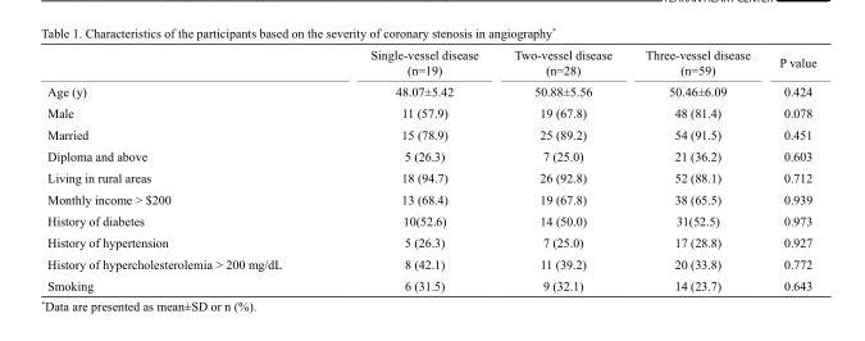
<table><thead><tr><td></td><td>Single-vessel disease (n=19)</td><td>Two-vessel disease (n=28)</td><td>Three-vessel disease (n=59)</td><td>P value</td></tr></thead><tbody><tr><td>Age (y)</td><td>48.07±5.42</td><td>50.88±5.56</td><td>50.46±6.09</td><td>0.424</td></tr><tr><td>Male</td><td>11 (57.9)</td><td>19 (67.8)</td><td>48 (81.4)</td><td>0.078</td></tr><tr><td>Married</td><td>15 (78.9)</td><td>25 (89.2)</td><td>54 (91.5)</td><td>0.451</td></tr><tr><td>Diploma and above</td><td>5 (26.3)</td><td>7 (25.0)</td><td>21 (36.2)</td><td>0.603</td></tr><tr><td>Living in rural areas</td><td>18 (94.7)</td><td>26 (92.8)</td><td>52 (88.1)</td><td>0.712</td></tr><tr><td>Monthly income &gt; $200</td><td>13 (68.4)</td><td>19 (67.8)</td><td>38 (65.5)</td><td>0.939</td></tr><tr><td>History of diabetes</td><td>10(52.6)</td><td>14 (50.0)</td><td>31(52.5)</td><td>0.973</td></tr><tr><td>History of hypertension</td><td>5 (26.3)</td><td>7 (25.0)</td><td>17 (28.8)</td><td>0.927</td></tr><tr><td>History of hypercholesterolemia &gt; 200 mg/dL</td><td>8 (42.1)</td><td>11 (39.2)</td><td>20 (33.8)</td><td>0.772</td></tr><tr><td>Smoking</td><td>6 (31.5)</td><td>9 (32.1)</td><td>14 (23.7)</td><td>0.643</td></tr></tbody></table>